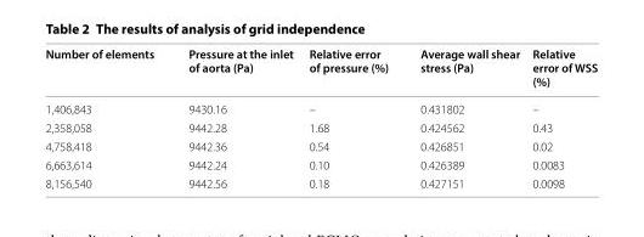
<table><thead><tr><td>Number of elements</td><td>Pressure at the inlet of aorta (Pa)</td><td>Relative error of pressure (%)</td><td>Average wall shear stress (Pa)</td><td>Relative error of WSS (%)</td></tr></thead><tbody><tr><td>1,406,843</td><td>9430.16</td><td>–</td><td>0.431802</td><td>–</td></tr><tr><td>2,358,058</td><td>9442.28</td><td>1.68</td><td>0.424562</td><td>0.43</td></tr><tr><td>4,758,418</td><td>9442.36</td><td>0.54</td><td>0.426851</td><td>0.02</td></tr><tr><td>6,663,614</td><td>9442.24</td><td>0.10</td><td>0.426389</td><td>0.0083</td></tr><tr><td>8,156,540</td><td>9442.56</td><td>0.18</td><td>0.427151</td><td>0.0098</td></tr></tbody></table>